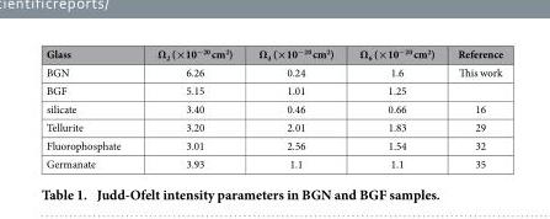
<table><thead><tr><td>Glass</td><td>Ω<sub>2</sub> (×10<sup>−20</sup> cm<sup>2</sup>)</td><td>Ω<sub>4</sub> (×10<sup>−20</sup> cm<sup>2</sup>)</td><td>Ω<sub>6</sub> (×10<sup>−20</sup> cm<sup>2</sup>)</td><td>Reference</td></tr></thead><tbody><tr><td>BGN</td><td>6.26</td><td>0.24</td><td>1.6</td><td>This work</td></tr><tr><td>BGF</td><td>5.15</td><td>1.01</td><td>1.25</td><td></td></tr><tr><td>silicate</td><td>3.40</td><td>0.46</td><td>0.66</td><td>16</td></tr><tr><td>Tellurite</td><td>3.20</td><td>2.01</td><td>1.83</td><td>29</td></tr><tr><td>Fluorophosphate</td><td>3.01</td><td>2.56</td><td>1.54</td><td>32</td></tr><tr><td>Germanate</td><td>3.93</td><td>1.1</td><td>1.1</td><td>35</td></tr></tbody></table>